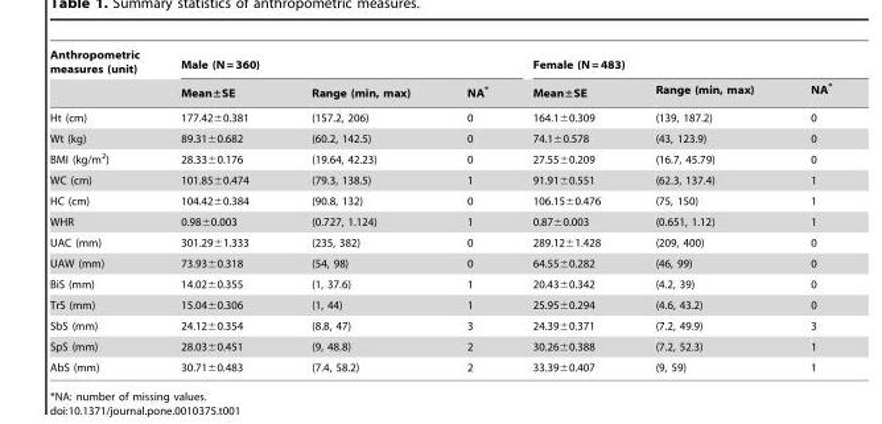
<table><thead><tr><td rowspan="2">Anthropometric measures (unit)</td><td colspan="3">Male (N = 360)</td><td colspan="3">Female (N = 483)</td></tr><tr><td>Mean±SE</td><td>Range (min, max)</td><td>NA*</td><td>Mean±SE</td><td>Range (min, max)</td><td>NA*</td></tr></thead><tbody><tr><td>Ht (cm)</td><td>177.42±0.381</td><td>(157.2, 206)</td><td>0</td><td>164.1±0.309</td><td>(139, 187.2)</td><td>0</td></tr><tr><td>Wt (kg)</td><td>89.31±0.682</td><td>(60.2, 142.5)</td><td>0</td><td>74.1±0.578</td><td>(43, 123.9)</td><td>0</td></tr><tr><td>BMI (kg/m<sup>2</sup>)</td><td>28.33±0.176</td><td>(19.64, 42.23)</td><td>0</td><td>27.55±0.209</td><td>(16.7, 45.79)</td><td>0</td></tr><tr><td>WC (cm)</td><td>101.85±0.474</td><td>(79.3, 138.5)</td><td>1</td><td>91.91±0.551</td><td>(62.3, 137.4)</td><td>1</td></tr><tr><td>HC (cm)</td><td>104.42±0.384</td><td>(90.8, 132)</td><td>0</td><td>106.15±0.476</td><td>(75, 150)</td><td>1</td></tr><tr><td>WHR</td><td>0.98±0.003</td><td>(0.727, 1.124)</td><td>1</td><td>0.87±0.003</td><td>(0.651, 1.12)</td><td>1</td></tr><tr><td>UAC (mm)</td><td>301.29±1.333</td><td>(235, 382)</td><td>0</td><td>289.12±1.428</td><td>(209, 400)</td><td>0</td></tr><tr><td>UAW (mm)</td><td>73.93±0.318</td><td>(54, 98)</td><td>0</td><td>64.55±0.282</td><td>(46, 99)</td><td>0</td></tr><tr><td>BiS (mm)</td><td>14.02±0.355</td><td>(1, 37.6)</td><td>1</td><td>20.43±0.342</td><td>(4.2, 39)</td><td>0</td></tr><tr><td>TrS (mm)</td><td>15.04±0.306</td><td>(1, 44)</td><td>1</td><td>25.95±0.294</td><td>(4.6, 43.2)</td><td>0</td></tr><tr><td>SbS (mm)</td><td>24.12±0.354</td><td>(8.8, 47)</td><td>3</td><td>24.39±0.371</td><td>(7.2, 49.9)</td><td>3</td></tr><tr><td>SpS (mm)</td><td>28.03±0.451</td><td>(9, 48.8)</td><td>2</td><td>30.26±0.388</td><td>(7.2, 52.3)</td><td>1</td></tr><tr><td>AbS (mm)</td><td>30.71±0.483</td><td>(7.4, 58.2)</td><td>2</td><td>33.39±0.407</td><td>(9, 59)</td><td>1</td></tr></tbody></table>